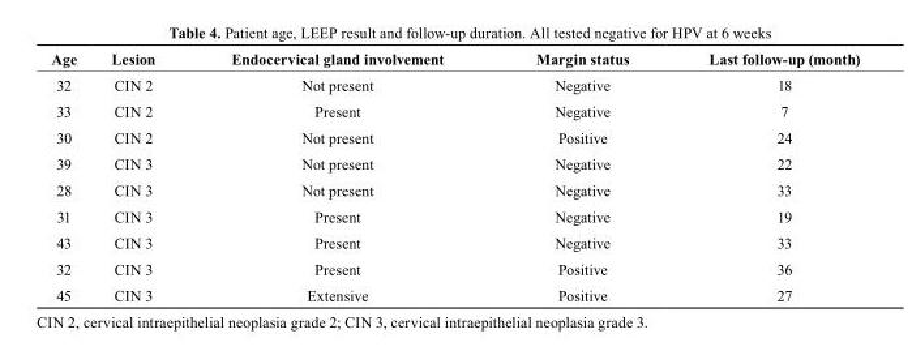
<table><thead><tr><td>Age</td><td>Lesion</td><td>Endocervical gland involvement</td><td>Margin status</td><td>Last follow-up (month)</td></tr></thead><tbody><tr><td>32</td><td>CIN 2</td><td>Not present</td><td>Negative</td><td>18</td></tr><tr><td>33</td><td>CIN 2</td><td>Present</td><td>Negative</td><td>7</td></tr><tr><td>30</td><td>CIN 2</td><td>Not present</td><td>Positive</td><td>24</td></tr><tr><td>39</td><td>CIN 3</td><td>Not present</td><td>Negative</td><td>22</td></tr><tr><td>28</td><td>CIN 3</td><td>Not present</td><td>Negative</td><td>33</td></tr><tr><td>31</td><td>CIN 3</td><td>Present</td><td>Negative</td><td>19</td></tr><tr><td>43</td><td>CIN 3</td><td>Present</td><td>Negative</td><td>33</td></tr><tr><td>32</td><td>CIN 3</td><td>Present</td><td>Positive</td><td>36</td></tr><tr><td>45</td><td>CIN 3</td><td>Extensive</td><td>Positive</td><td>27</td></tr></tbody></table>